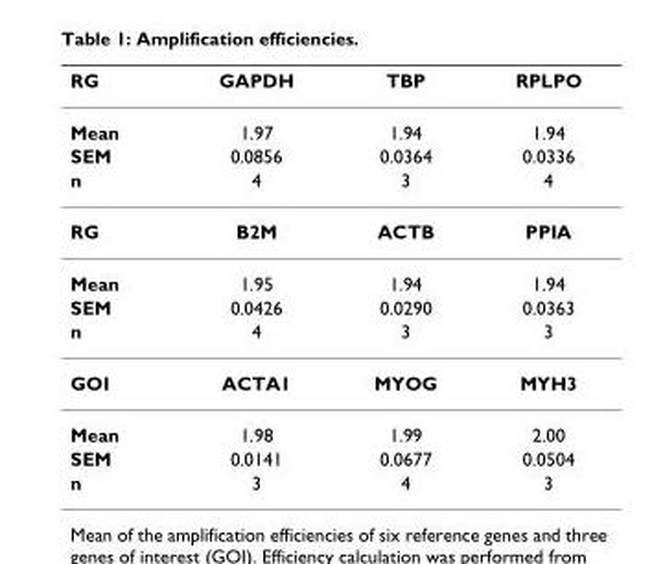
<table><thead><tr><td>RG</td><td>GAPDH</td><td>TBP</td><td>RPLPO</td></tr></thead><tbody><tr><td>Mean</td><td>1.97</td><td>1.94</td><td>1.94</td></tr><tr><td>SEM</td><td>0.0856</td><td>0.0364</td><td>0.0336</td></tr><tr><td>n</td><td>4</td><td>3</td><td>4</td></tr><tr><td>RG</td><td>B2M</td><td>ACTB</td><td>PPIA</td></tr><tr><td>Mean</td><td>1.95</td><td>1.94</td><td>1.94</td></tr><tr><td>SEM</td><td>0.0426</td><td>0.0290</td><td>0.0363</td></tr><tr><td>n</td><td>4</td><td>3</td><td>3</td></tr><tr><td>GOI</td><td>ACTA1</td><td>MYOG</td><td>MYH3</td></tr><tr><td>Mean</td><td>1.98</td><td>1.99</td><td>2.00</td></tr><tr><td>SEM</td><td>0.0141</td><td>0.0677</td><td>0.0504</td></tr><tr><td>n</td><td>3</td><td>4</td><td>3</td></tr></tbody></table>